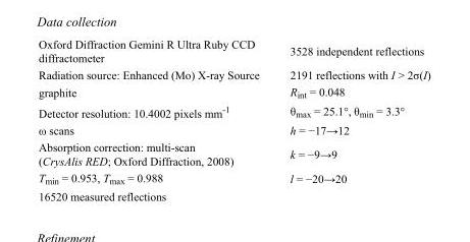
<table><tbody><tr><td>Oxford Diffraction Gemini R Ultra Ruby CCD diffractometer</td><td>3528 independent reflections</td></tr><tr><td>Radiation source: Enhanced (Mo) X-ray Source</td><td>2191 reflections with I &gt; 2σ(I)</td></tr><tr><td>graphite</td><td>R<sub>int</sub> = 0.048</td></tr><tr><td>Detector resolution: 10.4002 pixels mm<sup>-1</sup></td><td>θ<sub>max</sub> = 25.1°, θ<sub>min</sub> = 3.3°</td></tr><tr><td>ω scans</td><td>h = −17→12</td></tr><tr><td>Absorption correction: multi-scan (CrysAlis RED; Oxford Diffraction, 2008)</td><td>k = −9→9</td></tr><tr><td>T<sub>min</sub> = 0.953, T<sub>max</sub> = 0.988</td><td>l = −20→20</td></tr><tr><td>16520 measured reflections</td><td></td></tr></tbody></table>